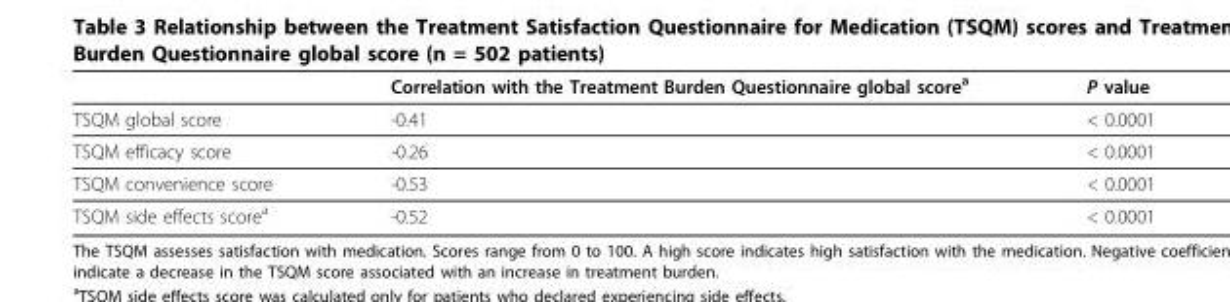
<table><thead><tr><td></td><td>Correlation with the Treatment Burden Questionnaire global scorea</td><td>P value</td></tr></thead><tbody><tr><td>TSQM global score</td><td>-0.41</td><td>&lt; 0.0001</td></tr><tr><td>TSQM efficacy score</td><td>-0.26</td><td>&lt; 0.0001</td></tr><tr><td>TSQM convenience score</td><td>-0.53</td><td>&lt; 0.0001</td></tr><tr><td>TSQM side effects scorea</td><td>-0.52</td><td>&lt; 0.0001</td></tr></tbody></table>